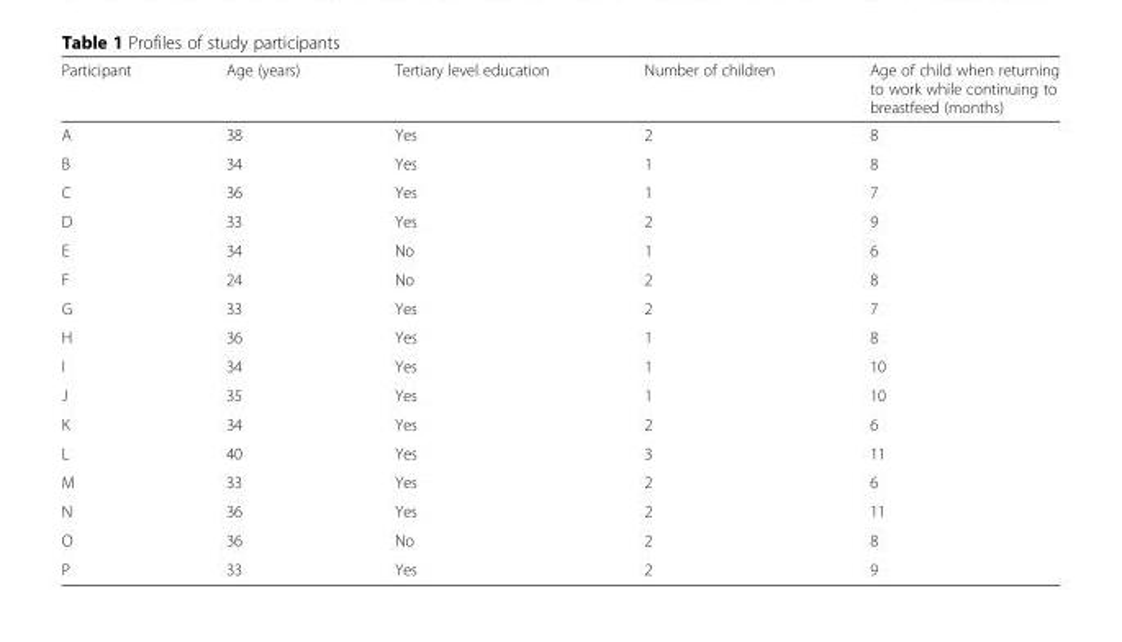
<table><thead><tr><td>Participant</td><td>Age (years)</td><td>Tertiary level education</td><td>Number of children</td><td>Age of child when returning to work while continuing to breastfeed (months)</td></tr></thead><tbody><tr><td>A</td><td>38</td><td>Yes</td><td>2</td><td>8</td></tr><tr><td>B</td><td>34</td><td>Yes</td><td>1</td><td>8</td></tr><tr><td>C</td><td>36</td><td>Yes</td><td>1</td><td>7</td></tr><tr><td>D</td><td>33</td><td>Yes</td><td>2</td><td>9</td></tr><tr><td>E</td><td>34</td><td>No</td><td>1</td><td>6</td></tr><tr><td>F</td><td>24</td><td>No</td><td>2</td><td>8</td></tr><tr><td>G</td><td>33</td><td>Yes</td><td>2</td><td>7</td></tr><tr><td>H</td><td>36</td><td>Yes</td><td>1</td><td>8</td></tr><tr><td>I</td><td>34</td><td>Yes</td><td>1</td><td>10</td></tr><tr><td>J</td><td>35</td><td>Yes</td><td>1</td><td>10</td></tr><tr><td>K</td><td>34</td><td>Yes</td><td>2</td><td>6</td></tr><tr><td>L</td><td>40</td><td>Yes</td><td>3</td><td>11</td></tr><tr><td>M</td><td>33</td><td>Yes</td><td>2</td><td>6</td></tr><tr><td>N</td><td>36</td><td>Yes</td><td>2</td><td>11</td></tr><tr><td>O</td><td>36</td><td>No</td><td>2</td><td>8</td></tr><tr><td>P</td><td>33</td><td>Yes</td><td>2</td><td>9</td></tr></tbody></table>